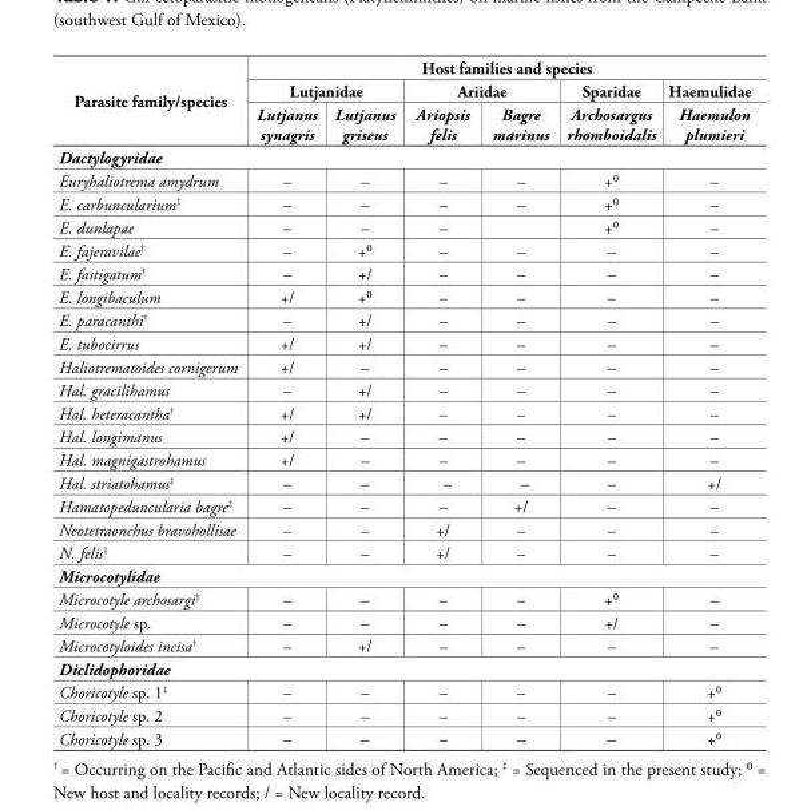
<table><thead><tr><td rowspan="3">Parasite family/species</td><td colspan="6">Host families and species</td></tr><tr><td colspan="2">Lutjanidae</td><td colspan="2">Ariidae</td><td rowspan="2">Sparidae Archosargus rhomboidalis</td><td rowspan="2">Haemulidae Haemulon plumieri</td></tr><tr><td>Lutjanus synagris</td><td>Lutjanus griseus</td><td>Ariopsis felis</td><td>Bagre marinus</td></tr></thead><tbody><tr><td colspan="7">Dactylogyridae</td></tr><tr><td>Euryhaliotrema amydrum</td><td>–</td><td>–</td><td>–</td><td>–</td><td>+⁰</td><td>–</td></tr><tr><td>E. carbuncularium<sup>‡</sup></td><td>–</td><td>–</td><td>–</td><td>–</td><td>+⁰</td><td>–</td></tr><tr><td>E. dunlapae</td><td>–</td><td>–</td><td>–</td><td></td><td>+⁰</td><td>–</td></tr><tr><td>E. fajeravilae<sup>†</sup></td><td>–</td><td>+⁰</td><td>–</td><td>–</td><td>–</td><td>–</td></tr><tr><td>E. fastigatum<sup>†</sup></td><td>–</td><td>+/</td><td>–</td><td>–</td><td>–</td><td>–</td></tr><tr><td>E. longibaculum</td><td>+/</td><td>+⁰</td><td>–</td><td>–</td><td>–</td><td>–</td></tr><tr><td>E. paracanthi<sup>†</sup></td><td>–</td><td>+/</td><td>–</td><td>–</td><td>–</td><td>–</td></tr><tr><td>E. tubocirrus</td><td>+/</td><td>+/</td><td>–</td><td>–</td><td>–</td><td>–</td></tr><tr><td>Haliotrematoides cornigerum</td><td>+/</td><td>–</td><td>–</td><td>–</td><td>–</td><td>–</td></tr><tr><td>Hal. gracilihamus</td><td>–</td><td>+/</td><td>–</td><td>–</td><td>–</td><td>–</td></tr><tr><td>Hal. heteracantha<sup>†</sup></td><td>+/</td><td>+/</td><td>–</td><td>–</td><td>–</td><td>–</td></tr><tr><td>Hal. longimanus</td><td>+/</td><td>–</td><td>–</td><td>–</td><td>–</td><td>–</td></tr><tr><td>Hal. magnigastrohamus</td><td>+/</td><td>–</td><td>–</td><td>–</td><td>–</td><td>–</td></tr><tr><td>Hal. striatohamus<sup>‡</sup></td><td>–</td><td>–</td><td>–</td><td>–</td><td>–</td><td>+/</td></tr><tr><td>Hamatopeduncularia bagre<sup>‡</sup></td><td>–</td><td>–</td><td>–</td><td>+/</td><td>–</td><td>–</td></tr><tr><td>Neotetraonchus bravohollisae</td><td>–</td><td>–</td><td>+/</td><td>–</td><td>–</td><td>–</td></tr><tr><td>N. felis<sup>‡</sup></td><td>–</td><td>–</td><td>+/</td><td>–</td><td>–</td><td>–</td></tr><tr><td colspan="7">Microcotylidae</td></tr><tr><td>Microcotyle archosargi<sup>‡</sup></td><td>–</td><td>–</td><td>–</td><td>–</td><td>+⁰</td><td>–</td></tr><tr><td>Microcotyle sp.</td><td>–</td><td>–</td><td>–</td><td>–</td><td>+/</td><td>–</td></tr><tr><td>Microcotyloides incisa<sup>†</sup></td><td>–</td><td>+/</td><td>–</td><td>–</td><td>–</td><td>–</td></tr><tr><td colspan="7">Diclidophoridae</td></tr><tr><td>Choricotyle sp. 1<sup>‡</sup></td><td>–</td><td>–</td><td>–</td><td>–</td><td>–</td><td>+⁰</td></tr><tr><td>Choricotyle sp. 2</td><td>–</td><td>–</td><td>–</td><td>–</td><td>–</td><td>+⁰</td></tr><tr><td>Choricotyle sp. 3</td><td>–</td><td>–</td><td>–</td><td>–</td><td>–</td><td>+⁰</td></tr></tbody></table>